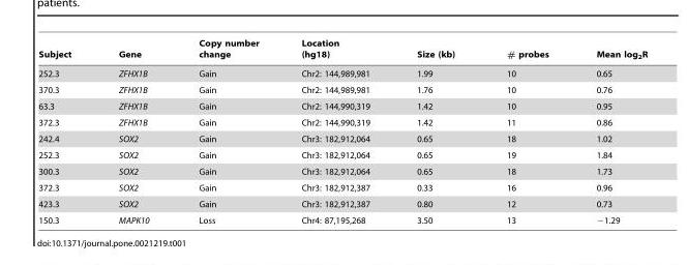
<table><thead><tr><td>Subject</td><td>Gene</td><td>Copy number change</td><td>Location (hg18)</td><td>Size (kb)</td><td># probes</td><td>Mean log<sub>2</sub>R</td></tr></thead><tbody><tr><td>252.3</td><td>ZFHX1B</td><td>Gain</td><td>Chr2: 144,989,981</td><td>1.99</td><td>10</td><td>0.65</td></tr><tr><td>370.3</td><td>ZFHX1B</td><td>Gain</td><td>Chr2: 144,989,981</td><td>1.76</td><td>10</td><td>0.76</td></tr><tr><td>63.3</td><td>ZFHX1B</td><td>Gain</td><td>Chr2: 144,990,319</td><td>1.42</td><td>10</td><td>0.95</td></tr><tr><td>372.3</td><td>ZFHX1B</td><td>Gain</td><td>Chr2: 144,990,319</td><td>1.42</td><td>11</td><td>0.86</td></tr><tr><td>242.4</td><td>SOX2</td><td>Gain</td><td>Chr3: 182,912,064</td><td>0.65</td><td>18</td><td>1.02</td></tr><tr><td>252.3</td><td>SOX2</td><td>Gain</td><td>Chr3: 182,912,064</td><td>0.65</td><td>19</td><td>1.84</td></tr><tr><td>300.3</td><td>SOX2</td><td>Gain</td><td>Chr3: 182,912,064</td><td>0.65</td><td>18</td><td>1.73</td></tr><tr><td>372.3</td><td>SOX2</td><td>Gain</td><td>Chr3: 182,912,387</td><td>0.33</td><td>16</td><td>0.96</td></tr><tr><td>423.3</td><td>SOX2</td><td>Gain</td><td>Chr3: 182,912,387</td><td>0.80</td><td>12</td><td>0.73</td></tr><tr><td>150.3</td><td>MAPK10</td><td>Loss</td><td>Chr4: 87,195,268</td><td>3.50</td><td>13</td><td>−1.29</td></tr></tbody></table>